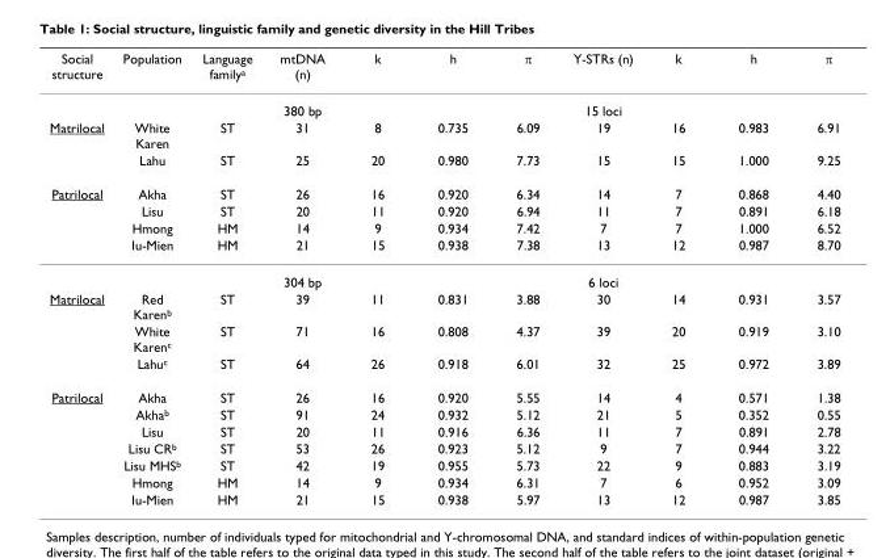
<table><thead><tr><td>Social structure</td><td>Population</td><td>Language family<sup>a</sup></td><td>mtDNA (n)</td><td>k</td><td>h</td><td>π</td><td>Y-STRs (n)</td><td>k</td><td>h</td><td>π</td></tr></thead><tbody><tr><td></td><td></td><td></td><td>380 bp</td><td></td><td></td><td></td><td>15 loci</td><td></td><td></td><td></td></tr><tr><td rowspan="2">Matrilocal</td><td>White Karen</td><td>ST</td><td>31</td><td>8</td><td>0.735</td><td>6.09</td><td>19</td><td>16</td><td>0.983</td><td>6.91</td></tr><tr><td>Lahu</td><td>ST</td><td>25</td><td>20</td><td>0.980</td><td>7.73</td><td>15</td><td>15</td><td>1.000</td><td>9.25</td></tr><tr><td rowspan="5">Patrilocal</td><td>Akha</td><td>ST</td><td>26</td><td>16</td><td>0.920</td><td>6.34</td><td>14</td><td>7</td><td>0.868</td><td>4.40</td></tr><tr><td>Lisu</td><td>ST</td><td>20</td><td>11</td><td>0.920</td><td>6.94</td><td>11</td><td>7</td><td>0.891</td><td>6.18</td></tr><tr><td>Hmong</td><td>HM</td><td>14</td><td>9</td><td>0.934</td><td>7.42</td><td>7</td><td>7</td><td>1.000</td><td>6.52</td></tr><tr><td>Iu-Mien</td><td>HM</td><td>21</td><td>15</td><td>0.938</td><td>7.38</td><td>13</td><td>12</td><td>0.987</td><td>8.70</td></tr><tr><td></td><td></td><td>304 bp</td><td></td><td></td><td></td><td>6 loci</td><td></td><td></td><td></td></tr><tr><td rowspan="3">Matrilocal</td><td>Red Karen<sup>b</sup></td><td>ST</td><td>39</td><td>11</td><td>0.831</td><td>3.88</td><td>30</td><td>14</td><td>0.931</td><td>3.57</td></tr><tr><td>White Karen<sup>c</sup></td><td>ST</td><td>71</td><td>16</td><td>0.808</td><td>4.37</td><td>39</td><td>20</td><td>0.919</td><td>3.10</td></tr><tr><td>Lahu<sup>c</sup></td><td>ST</td><td>64</td><td>26</td><td>0.918</td><td>6.01</td><td>32</td><td>25</td><td>0.972</td><td>3.89</td></tr><tr><td rowspan="7">Patrilocal</td><td>Akha</td><td>ST</td><td>26</td><td>16</td><td>0.920</td><td>5.55</td><td>14</td><td>4</td><td>0.571</td><td>1.38</td></tr><tr><td>Akha<sup>b</sup></td><td>ST</td><td>91</td><td>24</td><td>0.932</td><td>5.12</td><td>21</td><td>5</td><td>0.352</td><td>0.55</td></tr><tr><td>Lisu</td><td>ST</td><td>20</td><td>11</td><td>0.916</td><td>6.36</td><td>11</td><td>7</td><td>0.891</td><td>2.78</td></tr><tr><td>Lisu CR<sup>b</sup></td><td>ST</td><td>53</td><td>26</td><td>0.923</td><td>5.12</td><td>9</td><td>7</td><td>0.944</td><td>3.22</td></tr><tr><td>Lisu MHS<sup>b</sup></td><td>ST</td><td>42</td><td>19</td><td>0.955</td><td>5.73</td><td>22</td><td>9</td><td>0.883</td><td>3.19</td></tr><tr><td>Hmong</td><td>HM</td><td>14</td><td>9</td><td>0.934</td><td>6.31</td><td>7</td><td>6</td><td>0.952</td><td>3.09</td></tr><tr><td>Iu-Mien</td><td>HM</td><td>21</td><td>15</td><td>0.938</td><td>5.97</td><td>13</td><td>12</td><td>0.987</td><td>3.85</td></tr></tbody></table>